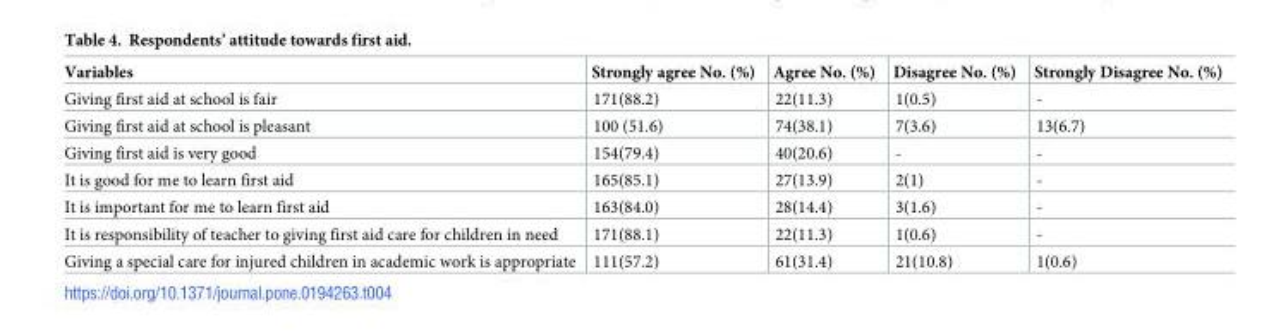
<table><thead><tr><td>Variables</td><td>Strongly agree No. (%)</td><td>Agree No. (%)</td><td>Disagree No. (%)</td><td>Strongly Disagree No. (%)</td></tr></thead><tbody><tr><td>Giving first aid at school is fair</td><td>171(88.2)</td><td>22(11.3)</td><td>1(0.5)</td><td>-</td></tr><tr><td>Giving first aid at school is pleasant</td><td>100 (51.6)</td><td>74(38.1)</td><td>7(3.6)</td><td>13(6.7)</td></tr><tr><td>Giving first aid is very good</td><td>154(79.4)</td><td>40(20.6)</td><td>-</td><td>-</td></tr><tr><td>It is good for me to learn first aid</td><td>165(85.1)</td><td>27(13.9)</td><td>2(1)</td><td>-</td></tr><tr><td>It is important for me to learn first aid</td><td>163(84.0)</td><td>28(14.4)</td><td>3(1.6)</td><td>-</td></tr><tr><td>It is responsibility of teacher to giving first aid care for children in need</td><td>171(88.1)</td><td>22(11.3)</td><td>1(0.6)</td><td>-</td></tr><tr><td>Giving a special care for injured children in academic work is appropriate</td><td>111(57.2)</td><td>61(31.4)</td><td>21(10.8)</td><td>1(0.6)</td></tr></tbody></table>